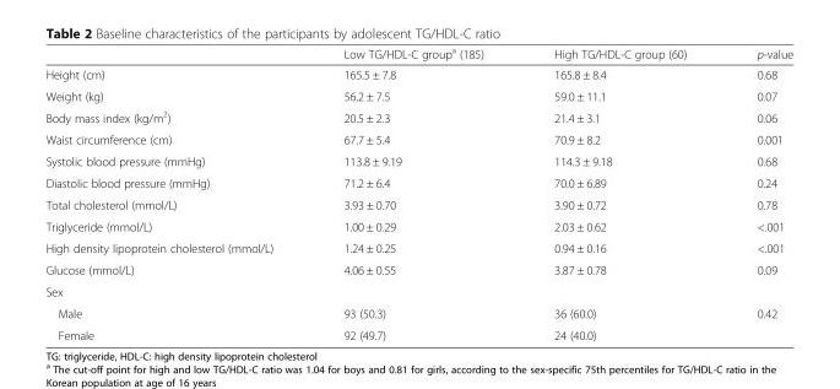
<table><thead><tr><td></td><td>Low TG/HDL-C group<sup>a</sup> (185)</td><td>High TG/HDL-C group (60)</td><td>p-value</td></tr></thead><tbody><tr><td>Height (cm)</td><td>165.5 ± 7.8</td><td>165.8 ± 8.4</td><td>0.68</td></tr><tr><td>Weight (kg)</td><td>56.2 ± 7.5</td><td>59.0 ± 11.1</td><td>0.07</td></tr><tr><td>Body mass index (kg/m<sup>2</sup>)</td><td>20.5 ± 2.3</td><td>21.4 ± 3.1</td><td>0.06</td></tr><tr><td>Waist circumference (cm)</td><td>67.7 ± 5.4</td><td>70.9 ± 8.2</td><td>0.001</td></tr><tr><td>Systolic blood pressure (mmHg)</td><td>113.8 ± 9.19</td><td>114.3 ± 9.18</td><td>0.68</td></tr><tr><td>Diastolic blood pressure (mmHg)</td><td>71.2 ± 6.4</td><td>70.0 ± 6.89</td><td>0.24</td></tr><tr><td>Total cholesterol (mmol/L)</td><td>3.93 ± 0.70</td><td>3.90 ± 0.72</td><td>0.78</td></tr><tr><td>Triglyceride (mmol/L)</td><td>1.00 ± 0.29</td><td>2.03 ± 0.62</td><td>&lt;.001</td></tr><tr><td>High density lipoprotein cholesterol (mmol/L)</td><td>1.24 ± 0.25</td><td>0.94 ± 0.16</td><td>&lt;.001</td></tr><tr><td>Glucose (mmol/L)</td><td>4.06 ± 0.55</td><td>3.87 ± 0.78</td><td>0.09</td></tr><tr><td colspan="4">Sex</td></tr><tr><td>Male</td><td>93 (50.3)</td><td>36 (60.0)</td><td>0.42</td></tr><tr><td>Female</td><td>92 (49.7)</td><td>24 (40.0)</td><td></td></tr></tbody></table>